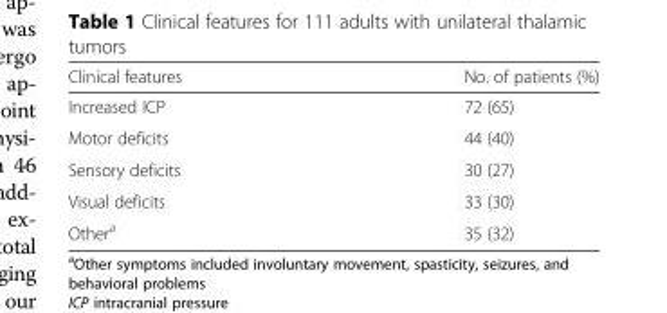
<table><thead><tr><td>Clinical features</td><td>No. of patients (%)</td></tr></thead><tbody><tr><td>Increased ICP</td><td>72 (65)</td></tr><tr><td>Motor deficits</td><td>44 (40)</td></tr><tr><td>Sensory deficits</td><td>30 (27)</td></tr><tr><td>Visual deficits</td><td>33 (30)</td></tr><tr><td>Other<sup>a</sup></td><td>35 (32)</td></tr></tbody></table>